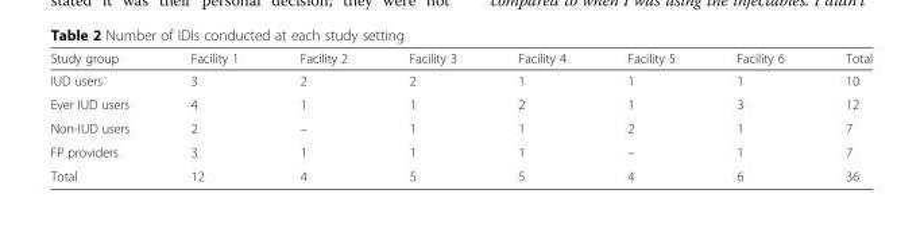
<table><thead><tr><td>Study group</td><td>Facility 1</td><td>Facility 2</td><td>Facility 3</td><td>Facility 4</td><td>Facility 5</td><td>Facility 6</td><td>Total</td></tr></thead><tbody><tr><td>IUD users</td><td>3</td><td>2</td><td>2</td><td>1</td><td>1</td><td>1</td><td>10</td></tr><tr><td>Ever IUD users</td><td>4</td><td>1</td><td>1</td><td>2</td><td>1</td><td>3</td><td>12</td></tr><tr><td>Non-IUD users</td><td>2</td><td>–</td><td>1</td><td>1</td><td>2</td><td>1</td><td>7</td></tr><tr><td>FP providers</td><td>3</td><td>1</td><td>1</td><td>1</td><td>–</td><td>1</td><td>7</td></tr><tr><td>Total</td><td>12</td><td>4</td><td>5</td><td>5</td><td>4</td><td>6</td><td>36</td></tr></tbody></table>